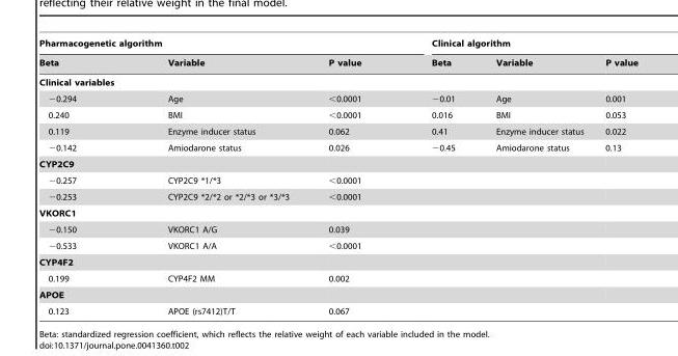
<table><thead><tr><td colspan="3">Pharmacogenetic algorithm</td><td colspan="3">Clinical algorithm</td></tr><tr><td>Beta</td><td>Variable</td><td>P value</td><td>Beta</td><td>Variable</td><td>P value</td></tr></thead><tbody><tr><td colspan="6">Clinical variables</td></tr><tr><td>−0.294</td><td>Age</td><td>&lt;0.0001</td><td>−0.01</td><td>Age</td><td>0.001</td></tr><tr><td>0.240</td><td>BMI</td><td>&lt;0.0001</td><td>0.016</td><td>BMI</td><td>0.053</td></tr><tr><td>0.119</td><td>Enzyme inducer status</td><td>0.062</td><td>0.41</td><td>Enzyme inducer status</td><td>0.022</td></tr><tr><td>−0.142</td><td>Amiodarone status</td><td>0.026</td><td>−0.45</td><td>Amiodarone status</td><td>0.13</td></tr><tr><td colspan="6">CYP2C9</td></tr><tr><td>−0.257</td><td>CYP2C9 *1/*3</td><td>&lt;0.0001</td><td></td><td></td><td></td></tr><tr><td>−0.253</td><td>CYP2C9 *2/*2 or *2/*3 or *3/*3</td><td>&lt;0.0001</td><td></td><td></td><td></td></tr><tr><td colspan="6">VKORC1</td></tr><tr><td>−0.150</td><td>VKORC1 A/G</td><td>0.039</td><td></td><td></td><td></td></tr><tr><td>−0.533</td><td>VKORC1 A/A</td><td>&lt;0.0001</td><td></td><td></td><td></td></tr><tr><td colspan="6">CYP4F2</td></tr><tr><td>0.199</td><td>CYP4F2 MM</td><td>0.002</td><td></td><td></td><td></td></tr><tr><td colspan="6">APOE</td></tr><tr><td>0.123</td><td>APOE (rs7412)T/T</td><td>0.067</td><td></td><td></td><td></td></tr></tbody></table>